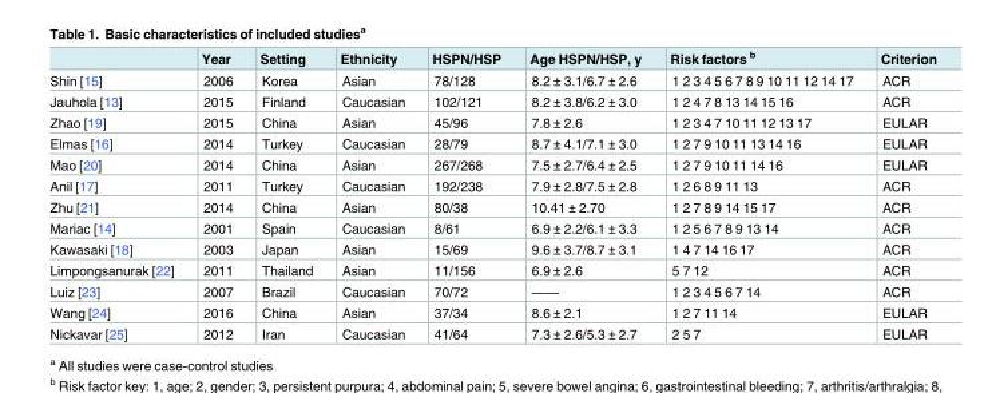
<table><thead><tr><td></td><td>Year</td><td>Setting</td><td>Ethnicity</td><td>HSPN/HSP</td><td>Age HSPN/HSP, y</td><td>Risk factors <sup>b</sup></td><td>Criterion</td></tr></thead><tbody><tr><td>Shin [15]</td><td>2006</td><td>Korea</td><td>Asian</td><td>78/128</td><td>8.2 ± 3.1/6.7 ± 2.6</td><td>1 2 3 4 5 6 7 8 9 10 11 12 14 17</td><td>ACR</td></tr><tr><td>Jauhola [13]</td><td>2015</td><td>Finland</td><td>Caucasian</td><td>102/121</td><td>8.2 ± 3.8/6.2 ± 3.0</td><td>1 2 4 7 8 13 14 15 16</td><td>ACR</td></tr><tr><td>Zhao [19]</td><td>2015</td><td>China</td><td>Asian</td><td>45/96</td><td>7.8 ± 2.6</td><td>1 2 3 4 7 10 11 12 13 17</td><td>EULAR</td></tr><tr><td>Elmas [16]</td><td>2014</td><td>Turkey</td><td>Caucasian</td><td>28/79</td><td>8.7 ± 4.1/7.1 ± 3.0</td><td>1 2 7 9 10 11 13 14 16</td><td>EULAR</td></tr><tr><td>Mao [20]</td><td>2014</td><td>China</td><td>Asian</td><td>267/268</td><td>7.5 ± 2.7/6.4 ± 2.5</td><td>1 2 7 9 10 11 14 16</td><td>EULAR</td></tr><tr><td>Anil [17]</td><td>2011</td><td>Turkey</td><td>Caucasian</td><td>192/238</td><td>7.9 ± 2.8/7.5 ± 2.8</td><td>1 2 6 8 9 11 13</td><td>ACR</td></tr><tr><td>Zhu [21]</td><td>2014</td><td>China</td><td>Asian</td><td>80/38</td><td>10.41 ± 2.70</td><td>1 2 7 8 9 14 15 17</td><td>ACR</td></tr><tr><td>Mariac [14]</td><td>2001</td><td>Spain</td><td>Caucasian</td><td>8/61</td><td>6.9 ± 2.2/6.1 ± 3.3</td><td>1 2 5 6 7 8 9 13 14</td><td>ACR</td></tr><tr><td>Kawasaki [18]</td><td>2003</td><td>Japan</td><td>Asian</td><td>15/69</td><td>9.6 ± 3.7/8.7 ± 3.1</td><td>1 4 7 14 16 17</td><td>ACR</td></tr><tr><td>Limpongsanurak [22]</td><td>2011</td><td>Thailand</td><td>Asian</td><td>11/156</td><td>6.9 ± 2.6</td><td>5 7 12</td><td>ACR</td></tr><tr><td>Luiz [23]</td><td>2007</td><td>Brazil</td><td>Caucasian</td><td>70/72</td><td>——</td><td>1 2 3 4 5 6 7 14</td><td>ACR</td></tr><tr><td>Wang [24]</td><td>2016</td><td>China</td><td>Asian</td><td>37/34</td><td>8.6 ± 2.1</td><td>1 2 7 11 14</td><td>EULAR</td></tr><tr><td>Nickavar [25]</td><td>2012</td><td>Iran</td><td>Caucasian</td><td>41/64</td><td>7.3 ± 2.6/5.3 ± 2.7</td><td>2 5 7</td><td>EULAR</td></tr></tbody></table>